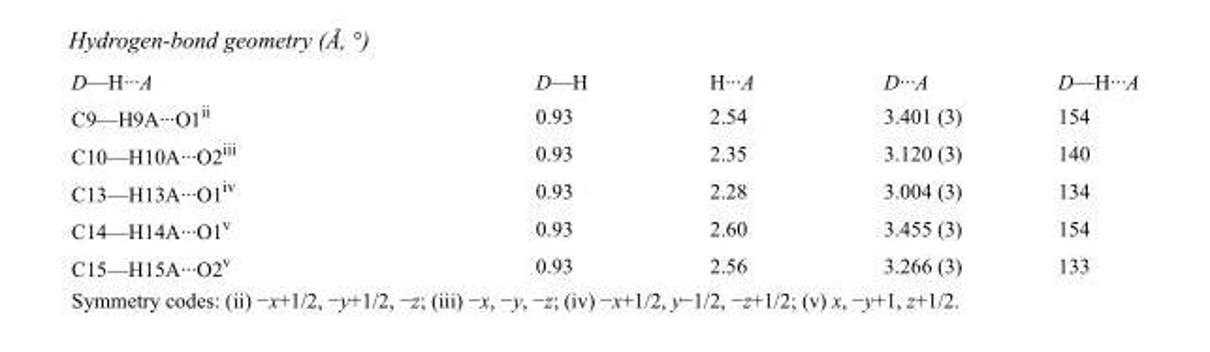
<table><tbody><tr><td>D—H···A</td><td>D—H</td><td>H···A</td><td>D···A</td><td>D—H···A</td></tr><tr><td>C9—H9A···O1<sup>ii</sup></td><td>0.93</td><td>2.54</td><td>3.401 (3)</td><td>154</td></tr><tr><td>C10—H10A···O2<sup>iii</sup></td><td>0.93</td><td>2.35</td><td>3.120 (3)</td><td>140</td></tr><tr><td>C13—H13A···O1<sup>iv</sup></td><td>0.93</td><td>2.28</td><td>3.004 (3)</td><td>134</td></tr><tr><td>C14—H14A···O1<sup>v</sup></td><td>0.93</td><td>2.60</td><td>3.455 (3)</td><td>154</td></tr><tr><td>C15—H15A···O2<sup>v</sup></td><td>0.93</td><td>2.56</td><td>3.266 (3)</td><td>133</td></tr></tbody></table>